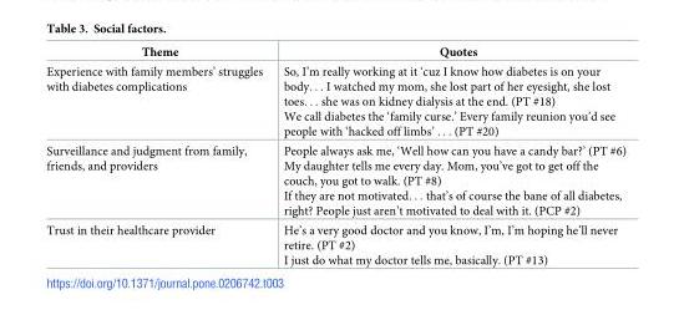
<table><thead><tr><td>Theme</td><td>Quotes</td></tr></thead><tbody><tr><td>Experience with family members’ struggles with diabetes complications</td><td>So, I’m really working at it ‘cuz I know how diabetes is on your body. . . I watched my mom, she lost part of her eyesight, she lost toes. . . she was on kidney dialysis at the end. (PT #18) We call diabetes the ‘family curse.’ Every family reunion you’d see people with ‘hacked off limbs’ . . . (PT #20)</td></tr><tr><td>Surveillance and judgment from family, friends, and providers</td><td>People always ask me, ‘Well how can you have a candy bar?’ (PT #6) My daughter tells me every day. Mom, you’ve got to get off the couch, you got to walk. (PT #8) If they are not motivated. . . that’s of course the bane of all diabetes, right? People just aren’t motivated to deal with it. (PCP #2)</td></tr><tr><td>Trust in their healthcare provider</td><td>He’s a very good doctor and you know, I’m, I’m hoping he’ll never retire. (PT #2) I just do what my doctor tells me, basically. (PT #13)</td></tr></tbody></table>